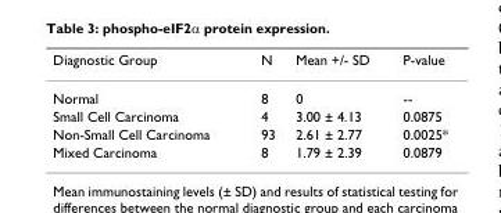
<table><thead><tr><td>Diagnostic Group</td><td>N</td><td>Mean +/- SD</td><td>P-value</td></tr></thead><tbody><tr><td>Normal</td><td>8</td><td>0</td><td>--</td></tr><tr><td>Small Cell Carcinoma</td><td>4</td><td>3.00 ± 4.13</td><td>0.0875</td></tr><tr><td>Non-Small Cell Carcinoma</td><td>93</td><td>2.61 ± 2.77</td><td>0.0025*</td></tr><tr><td>Mixed Carcinoma</td><td>8</td><td>1.79 ± 2.39</td><td>0.0879</td></tr></tbody></table>